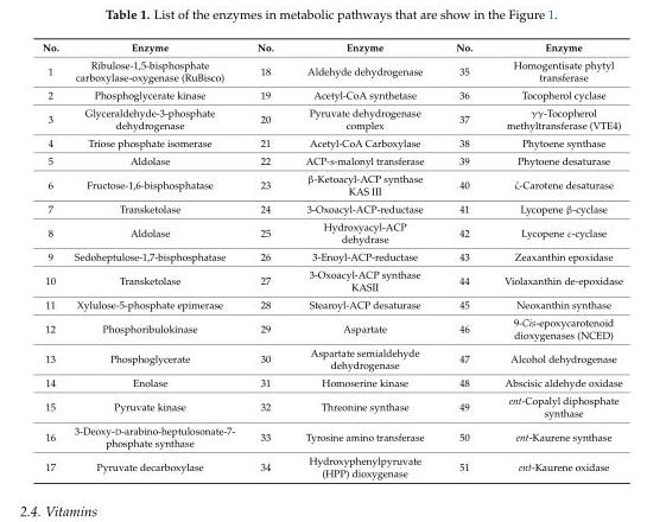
<table><thead><tr><td>No.</td><td>Enzyme</td><td>No.</td><td>Enzyme</td><td>No.</td><td>Enzyme</td></tr></thead><tbody><tr><td>1</td><td>Ribulose-1,5-bisphosphate carboxylase-oxygenase (RuBisco)</td><td>18</td><td>Aldehyde dehydrogenase</td><td>35</td><td>Homogentisate phytyl transferase</td></tr><tr><td>2</td><td>Phosphoglycerate kinase</td><td>19</td><td>Acetyl-CoA synthetase</td><td>36</td><td>Tocopherol cyclase</td></tr><tr><td>3</td><td>Glyceraldehyde-3-phosphate dehydrogenase</td><td>20</td><td>Pyruvate dehydrogenase complex</td><td>37</td><td>γγ-Tocopherol methyltransferase (VTE4)</td></tr><tr><td>4</td><td>Triose phosphate isomerase</td><td>21</td><td>Acetyl-CoA Carboxylase</td><td>38</td><td>Phytoene synthase</td></tr><tr><td>5</td><td>Aldolase</td><td>22</td><td>ACP-s-malonyl transferase</td><td>39</td><td>Phytoene desaturase</td></tr><tr><td>6</td><td>Fructose-1,6-bisphosphatase</td><td>23</td><td>β-Ketoacyl-ACP synthase KAS III</td><td>40</td><td>ζ-Carotene desaturase</td></tr><tr><td>7</td><td>Transketolase</td><td>24</td><td>3-Oxoacyl-ACP-reductase</td><td>41</td><td>Lycopene β-cyclase</td></tr><tr><td>8</td><td>Aldolase</td><td>25</td><td>Hydroxyacyl-ACP dehydrase</td><td>42</td><td>Lycopene ε-cyclase</td></tr><tr><td>9</td><td>Sedoheptulose-1,7-bisphosphatase</td><td>26</td><td>3-Enoyl-ACP-reductase</td><td>43</td><td>Zeaxanthin epoxidase</td></tr><tr><td>10</td><td>Transketolase</td><td>27</td><td>3-Oxoacyl-ACP synthase KASII</td><td>44</td><td>Violaxanthin de-epoxidase</td></tr><tr><td>11</td><td>Xylulose-5-phosphate epimerase</td><td>28</td><td>Stearoyl-ACP desaturase</td><td>45</td><td>Neoxanthin synthase</td></tr><tr><td>12</td><td>Phosphoribulokinase</td><td>29</td><td>Aspartate</td><td>46</td><td>9-Cis-epoxycarotenoid dioxygenases (NCED)</td></tr><tr><td>13</td><td>Phosphoglycerate</td><td>30</td><td>Aspartate semialdehyde dehydrogenase</td><td>47</td><td>Alcohol dehydrogenase</td></tr><tr><td>14</td><td>Enolase</td><td>31</td><td>Homoserine kinase</td><td>48</td><td>Abscisic aldehyde oxidase</td></tr><tr><td>15</td><td>Pyruvate kinase</td><td>32</td><td>Threonine synthase</td><td>49</td><td>ent-Copalyl diphosphate synthase</td></tr><tr><td>16</td><td>3-Deoxy-D-arabino-heptulosonate-7- phosphate synthase</td><td>33</td><td>Tyrosine amino transferase</td><td>50</td><td>ent-Kaurene synthase</td></tr><tr><td>17</td><td>Pyruvate decarboxylase</td><td>34</td><td>Hydroxyphenylpyruvate (HPP) dioxygenase</td><td>51</td><td>ent-Kaurene oxidase</td></tr></tbody></table>